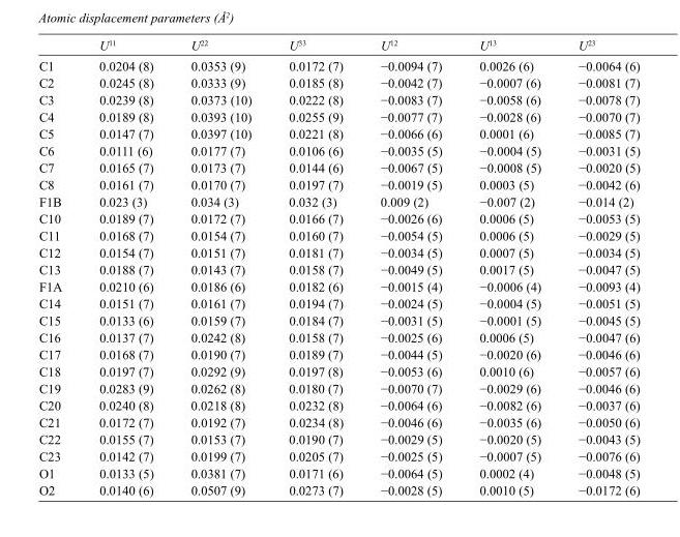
<table><thead><tr><td></td><td>U<sup>11</sup></td><td>U<sup>22</sup></td><td>U<sup>33</sup></td><td>U<sup>12</sup></td><td>U<sup>13</sup></td><td>U<sup>23</sup></td></tr></thead><tbody><tr><td>C1</td><td>0.0204 (8)</td><td>0.0353 (9)</td><td>0.0172 (7)</td><td>−0.0094 (7)</td><td>0.0026 (6)</td><td>−0.0064 (6)</td></tr><tr><td>C2</td><td>0.0245 (8)</td><td>0.0333 (9)</td><td>0.0185 (8)</td><td>−0.0042 (7)</td><td>−0.0007 (6)</td><td>−0.0081 (7)</td></tr><tr><td>C3</td><td>0.0239 (8)</td><td>0.0373 (10)</td><td>0.0222 (8)</td><td>−0.0083 (7)</td><td>−0.0058 (6)</td><td>−0.0078 (7)</td></tr><tr><td>C4</td><td>0.0189 (8)</td><td>0.0393 (10)</td><td>0.0255 (9)</td><td>−0.0077 (7)</td><td>−0.0028 (6)</td><td>−0.0070 (7)</td></tr><tr><td>C5</td><td>0.0147 (7)</td><td>0.0397 (10)</td><td>0.0221 (8)</td><td>−0.0066 (6)</td><td>0.0001 (6)</td><td>−0.0085 (7)</td></tr><tr><td>C6</td><td>0.0111 (6)</td><td>0.0177 (7)</td><td>0.0106 (6)</td><td>−0.0035 (5)</td><td>−0.0004 (5)</td><td>−0.0031 (5)</td></tr><tr><td>C7</td><td>0.0165 (7)</td><td>0.0173 (7)</td><td>0.0144 (6)</td><td>−0.0067 (5)</td><td>−0.0008 (5)</td><td>−0.0020 (5)</td></tr><tr><td>C8</td><td>0.0161 (7)</td><td>0.0170 (7)</td><td>0.0197 (7)</td><td>−0.0019 (5)</td><td>0.0003 (5)</td><td>−0.0042 (6)</td></tr><tr><td>F1B</td><td>0.023 (3)</td><td>0.034 (3)</td><td>0.032 (3)</td><td>0.009 (2)</td><td>−0.007 (2)</td><td>−0.014 (2)</td></tr><tr><td>C10</td><td>0.0189 (7)</td><td>0.0172 (7)</td><td>0.0166 (7)</td><td>−0.0026 (6)</td><td>0.0006 (5)</td><td>−0.0053 (5)</td></tr><tr><td>C11</td><td>0.0168 (7)</td><td>0.0154 (7)</td><td>0.0160 (7)</td><td>−0.0054 (5)</td><td>0.0006 (5)</td><td>−0.0029 (5)</td></tr><tr><td>C12</td><td>0.0154 (7)</td><td>0.0151 (7)</td><td>0.0181 (7)</td><td>−0.0034 (5)</td><td>0.0007 (5)</td><td>−0.0034 (5)</td></tr><tr><td>C13</td><td>0.0188 (7)</td><td>0.0143 (7)</td><td>0.0158 (7)</td><td>−0.0049 (5)</td><td>0.0017 (5)</td><td>−0.0047 (5)</td></tr><tr><td>F1A</td><td>0.0210 (6)</td><td>0.0186 (6)</td><td>0.0182 (6)</td><td>−0.0015 (4)</td><td>−0.0006 (4)</td><td>−0.0093 (4)</td></tr><tr><td>C14</td><td>0.0151 (7)</td><td>0.0161 (7)</td><td>0.0194 (7)</td><td>−0.0024 (5)</td><td>−0.0004 (5)</td><td>−0.0051 (5)</td></tr><tr><td>C15</td><td>0.0133 (6)</td><td>0.0159 (7)</td><td>0.0184 (7)</td><td>−0.0031 (5)</td><td>−0.0001 (5)</td><td>−0.0045 (5)</td></tr><tr><td>C16</td><td>0.0137 (7)</td><td>0.0242 (8)</td><td>0.0158 (7)</td><td>−0.0025 (6)</td><td>0.0006 (5)</td><td>−0.0047 (6)</td></tr><tr><td>C17</td><td>0.0168 (7)</td><td>0.0190 (7)</td><td>0.0189 (7)</td><td>−0.0044 (5)</td><td>−0.0020 (6)</td><td>−0.0046 (6)</td></tr><tr><td>C18</td><td>0.0197 (7)</td><td>0.0292 (9)</td><td>0.0197 (8)</td><td>−0.0053 (6)</td><td>0.0010 (6)</td><td>−0.0057 (6)</td></tr><tr><td>C19</td><td>0.0283 (9)</td><td>0.0262 (8)</td><td>0.0180 (7)</td><td>−0.0070 (7)</td><td>−0.0029 (6)</td><td>−0.0046 (6)</td></tr><tr><td>C20</td><td>0.0240 (8)</td><td>0.0218 (8)</td><td>0.0232 (8)</td><td>−0.0064 (6)</td><td>−0.0082 (6)</td><td>−0.0037 (6)</td></tr><tr><td>C21</td><td>0.0172 (7)</td><td>0.0192 (7)</td><td>0.0234 (8)</td><td>−0.0046 (6)</td><td>−0.0035 (6)</td><td>−0.0050 (6)</td></tr><tr><td>C22</td><td>0.0155 (7)</td><td>0.0153 (7)</td><td>0.0190 (7)</td><td>−0.0029 (5)</td><td>−0.0020 (5)</td><td>−0.0043 (5)</td></tr><tr><td>C23</td><td>0.0142 (7)</td><td>0.0199 (7)</td><td>0.0205 (7)</td><td>−0.0025 (5)</td><td>−0.0007 (5)</td><td>−0.0076 (6)</td></tr><tr><td>O1</td><td>0.0133 (5)</td><td>0.0381 (7)</td><td>0.0171 (6)</td><td>−0.0064 (5)</td><td>0.0002 (4)</td><td>−0.0048 (5)</td></tr><tr><td>O2</td><td>0.0140 (6)</td><td>0.0507 (9)</td><td>0.0273 (7)</td><td>−0.0028 (5)</td><td>0.0010 (5)</td><td>−0.0172 (6)</td></tr></tbody></table>